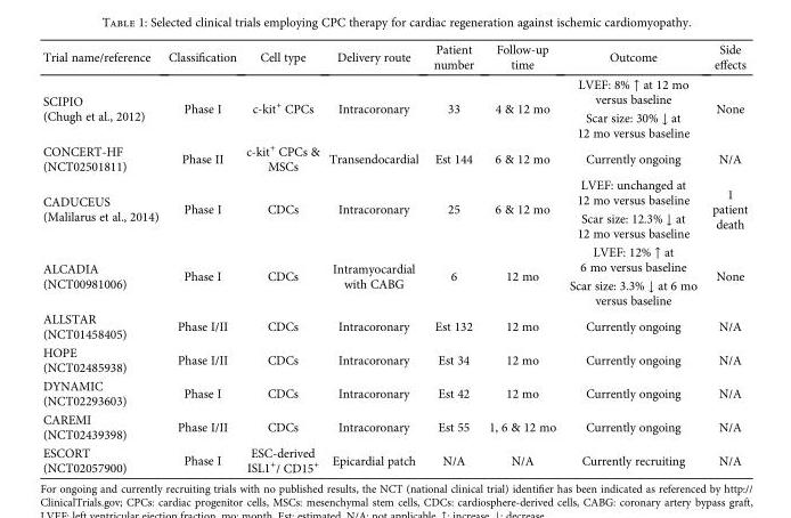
<table><thead><tr><td>Trial name/reference</td><td>Classification</td><td>Cell type</td><td>Delivery route</td><td>Patient number</td><td>Follow-up time</td><td>Outcome</td><td>Side effects</td></tr></thead><tbody><tr><td rowspan="2">SCIPIO (Chugh et al., 2012)</td><td rowspan="2">Phase I</td><td rowspan="2">c-kit<sup>+</sup> CPCs</td><td rowspan="2">Intracoronary</td><td rowspan="2">33</td><td rowspan="2">4 &amp; 12 mo</td><td>LVEF: 8% ↑ at 12 mo versus baseline</td><td rowspan="2">None</td></tr><tr><td>Scar size: 30% ↓ at 12 mo versus baseline</td></tr><tr><td>CONCERT-HF (NCT02501811)</td><td>Phase II</td><td>c-kit<sup>+</sup> CPCs &amp; MSCs</td><td>Transendocardial</td><td>Est 144</td><td>6 &amp; 12 mo</td><td>Currently ongoing</td><td>N/A</td></tr><tr><td rowspan="2">CADUCEUS (Malilarus et al., 2014)</td><td rowspan="2">Phase I</td><td rowspan="2">CDCs</td><td rowspan="2">Intracoronary</td><td rowspan="2">25</td><td rowspan="2">6 &amp; 12 mo</td><td>LVEF: unchanged at 12 mo versus baseline</td><td rowspan="2">1 patient death</td></tr><tr><td>Scar size: 12.3% ↓ at 12 mo versus baseline</td></tr><tr><td rowspan="2">ALCADIA (NCT00981006)</td><td rowspan="2">Phase I</td><td rowspan="2">CDCs</td><td rowspan="2">Intramyocardial with CABG</td><td rowspan="2">6</td><td rowspan="2">12 mo</td><td>LVEF: 12% ↑ at 6 mo versus baseline</td><td rowspan="2">None</td></tr><tr><td>Scar size: 3.3% ↓ at 6 mo versus baseline</td></tr><tr><td>ALLSTAR (NCT01458405)</td><td>Phase I/II</td><td>CDCs</td><td>Intracoronary</td><td>Est 132</td><td>12 mo</td><td>Currently ongoing</td><td>N/A</td></tr><tr><td>HOPE (NCT02485938)</td><td>Phase I/II</td><td>CDCs</td><td>Intracoronary</td><td>Est 34</td><td>12 mo</td><td>Currently ongoing</td><td>N/A</td></tr><tr><td>DYNAMIC (NCT02293603)</td><td>Phase I</td><td>CDCs</td><td>Intracoronary</td><td>Est 42</td><td>12 mo</td><td>Currently ongoing</td><td>N/A</td></tr><tr><td>CAREMI (NCT02439398)</td><td>Phase I/II</td><td>CDCs</td><td>Intracoronary</td><td>Est 55</td><td>1, 6 &amp; 12 mo</td><td>Currently ongoing</td><td>N/A</td></tr><tr><td>ESCORT (NCT02057900)</td><td>Phase I</td><td>ESC-derived ISL1<sup>+</sup>/ CD15<sup>+</sup></td><td>Epicardial patch</td><td>N/A</td><td>N/A</td><td>Currently recruiting</td><td>N/A</td></tr></tbody></table>